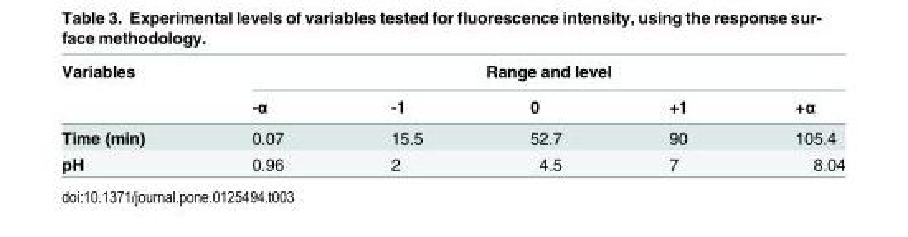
<table><thead><tr><td rowspan="2">Variables</td><td colspan="5">Range and level</td></tr><tr><td>-α</td><td>-1</td><td>0</td><td>+1</td><td>+α</td></tr></thead><tbody><tr><td>Time (min)</td><td>0.07</td><td>15.5</td><td>52.7</td><td>90</td><td>105.4</td></tr><tr><td>pH</td><td>0.96</td><td>2</td><td>4.5</td><td>7</td><td>8.04</td></tr></tbody></table>